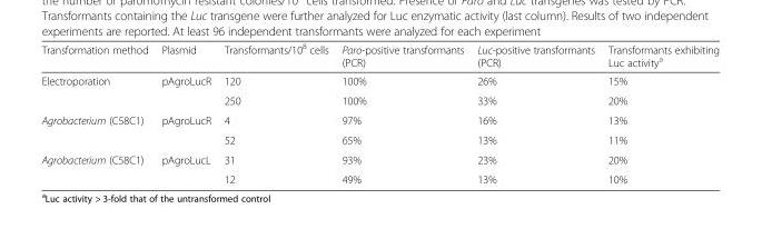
<table><thead><tr><td>Transformation method</td><td>Plasmid</td><td>Transformants/10<sup>8</sup> cells</td><td>Paro-positive transformants (PCR)</td><td>Luc-positive transformants (PCR)</td><td>Transformants exhibiting Luc activity<sup>a</sup></td></tr></thead><tbody><tr><td rowspan="2">Electroporation</td><td rowspan="2">pAgroLucR</td><td>120</td><td>100%</td><td>26%</td><td>15%</td></tr><tr><td>250</td><td>100%</td><td>33%</td><td>20%</td></tr><tr><td rowspan="2">Agrobacterium (C58C1)</td><td rowspan="2">pAgroLucR</td><td>4</td><td>97%</td><td>16%</td><td>13%</td></tr><tr><td>52</td><td>65%</td><td>13%</td><td>11%</td></tr><tr><td rowspan="2">Agrobacterium (C58C1)</td><td rowspan="2">pAgroLucL</td><td>31</td><td>93%</td><td>23%</td><td>20%</td></tr><tr><td>12</td><td>49%</td><td>13%</td><td>10%</td></tr></tbody></table>